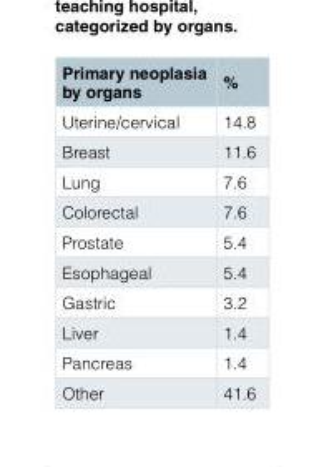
<table><thead><tr><td>Primary neoplasia by organs</td><td>%</td></tr></thead><tbody><tr><td>Uterine/cervical</td><td>14.8</td></tr><tr><td>Breast</td><td>11.6</td></tr><tr><td>Lung</td><td>7.6</td></tr><tr><td>Colorectal</td><td>7.6</td></tr><tr><td>Prostate</td><td>5.4</td></tr><tr><td>Esophageal</td><td>5.4</td></tr><tr><td>Gastric</td><td>3.2</td></tr><tr><td>Liver</td><td>1.4</td></tr><tr><td>Pancreas</td><td>1.4</td></tr><tr><td>Other</td><td>41.6</td></tr></tbody></table>